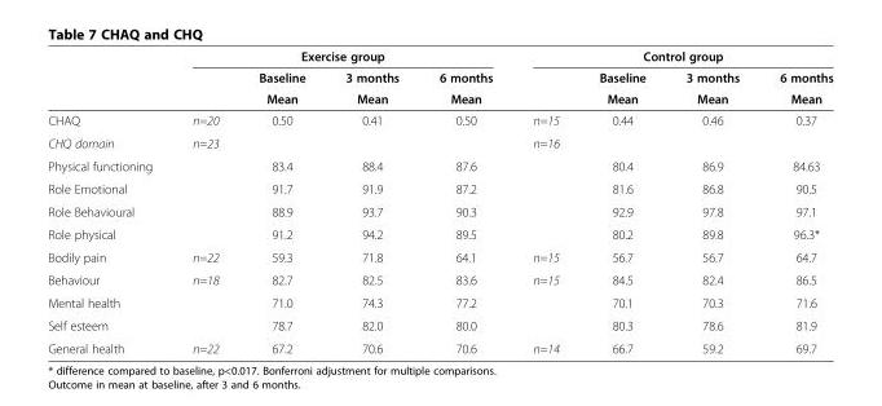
<table><thead><tr><td rowspan="3"></td><td colspan="4">Exercise group</td><td colspan="4">Control group</td></tr><tr><td rowspan="2"></td><td rowspan="2">Baseline Mean</td><td rowspan="2">3 months Mean</td><td rowspan="2">6 months Mean</td><td rowspan="2"></td><td rowspan="2">Baseline Mean</td><td rowspan="2">3 months Mean</td><td rowspan="2">6 months Mean</td></tr><tr></tr></thead><tbody><tr><td>CHAQ</td><td>n=20</td><td>0.50</td><td>0.41</td><td>0.50</td><td>n=15</td><td>0.44</td><td>0.46</td><td>0.37</td></tr><tr><td>CHQ domain</td><td>n=23</td><td></td><td></td><td></td><td>n=16</td><td></td><td></td><td></td></tr><tr><td>Physical functioning</td><td></td><td>83.4</td><td>88.4</td><td>87.6</td><td></td><td>80.4</td><td>86.9</td><td>84.63</td></tr><tr><td>Role Emotional</td><td></td><td>91.7</td><td>91.9</td><td>87.2</td><td></td><td>81.6</td><td>86.8</td><td>90.5</td></tr><tr><td>Role Behavioural</td><td></td><td>88.9</td><td>93.7</td><td>90.3</td><td></td><td>92.9</td><td>97.8</td><td>97.1</td></tr><tr><td>Role physical</td><td></td><td>91.2</td><td>94.2</td><td>89.5</td><td></td><td>80.2</td><td>89.8</td><td>96.3*</td></tr><tr><td>Bodily pain</td><td>n=22</td><td>59.3</td><td>71.8</td><td>64.1</td><td>n=15</td><td>56.7</td><td>56.7</td><td>64.7</td></tr><tr><td>Behaviour</td><td>n=18</td><td>82.7</td><td>82.5</td><td>83.6</td><td>n=15</td><td>84.5</td><td>82.4</td><td>86.5</td></tr><tr><td>Mental health</td><td></td><td>71.0</td><td>74.3</td><td>77.2</td><td></td><td>70.1</td><td>70.3</td><td>71.6</td></tr><tr><td>Self esteem</td><td></td><td>78.7</td><td>82.0</td><td>80.0</td><td></td><td>80.3</td><td>78.6</td><td>81.9</td></tr><tr><td>General health</td><td>n=22</td><td>67.2</td><td>70.6</td><td>70.6</td><td>n=14</td><td>66.7</td><td>59.2</td><td>69.7</td></tr></tbody></table>